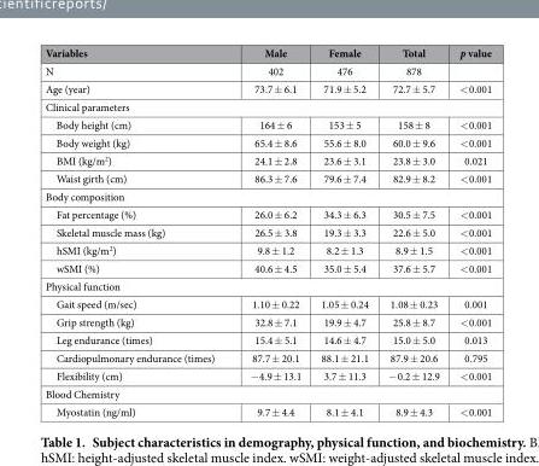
<table><thead><tr><td>Variables</td><td>Male</td><td>Female</td><td>Total</td><td>p value</td></tr></thead><tbody><tr><td>N</td><td>402</td><td>476</td><td>878</td><td></td></tr><tr><td>Age (year)</td><td>73.7 ± 6.1</td><td>71.9 ± 5.2</td><td>72.7 ± 5.7</td><td>&lt; 0.001</td></tr><tr><td colspan="5">Clinical parameters</td></tr><tr><td>Body height (cm)</td><td>164 ± 6</td><td>153 ± 5</td><td>158 ± 8</td><td>&lt; 0.001</td></tr><tr><td>Body weight (kg)</td><td>65.4 ± 8.6</td><td>55.6 ± 8.0</td><td>60.0 ± 9.6</td><td>&lt; 0.001</td></tr><tr><td>BMI (kg/m<sup>2</sup>)</td><td>24.1 ± 2.8</td><td>23.6 ± 3.1</td><td>23.8 ± 3.0</td><td>0.021</td></tr><tr><td>Waist girth (cm)</td><td>86.3 ± 7.6</td><td>79.6 ± 7.4</td><td>82.9 ± 8.2</td><td>&lt; 0.001</td></tr><tr><td colspan="5">Body composition</td></tr><tr><td>Fat percentage (%)</td><td>26.0 ± 6.2</td><td>34.3 ± 6.3</td><td>30.5 ± 7.5</td><td>&lt; 0.001</td></tr><tr><td>Skeletal muscle mass (kg)</td><td>26.5 ± 3.8</td><td>19.3 ± 3.3</td><td>22.6 ± 5.0</td><td>&lt; 0.001</td></tr><tr><td>hSMI (kg/m<sup>2</sup>)</td><td>9.8 ± 1.2</td><td>8.2 ± 1.3</td><td>8.9 ± 1.5</td><td>&lt; 0.001</td></tr><tr><td>wSMI (%)</td><td>40.6 ± 4.5</td><td>35.0 ± 5.4</td><td>37.6 ± 5.7</td><td>&lt; 0.001</td></tr><tr><td colspan="5">Physical function</td></tr><tr><td>Gait speed (m/sec)</td><td>1.10 ± 0.22</td><td>1.05 ± 0.24</td><td>1.08 ± 0.23</td><td>0.001</td></tr><tr><td>Grip strength (kg)</td><td>32.8 ± 7.1</td><td>19.9 ± 4.7</td><td>25.8 ± 8.7</td><td>&lt; 0.001</td></tr><tr><td>Leg endurance (times)</td><td>15.4 ± 5.1</td><td>14.6 ± 4.7</td><td>15.0 ± 5.0</td><td>0.013</td></tr><tr><td>Cardiopulmonary endurance (times)</td><td>87.7 ± 20.1</td><td>88.1 ± 21.1</td><td>87.9 ± 20.6</td><td>0.795</td></tr><tr><td>Flexibility (cm)</td><td>− 4.9 ± 13.1</td><td>3.7 ± 11.3</td><td>− 0.2 ± 12.9</td><td>&lt; 0.001</td></tr><tr><td colspan="5">Blood Chemistry</td></tr><tr><td>Myostatin (ng/ml)</td><td>9.7 ± 4.4</td><td>8.1 ± 4.1</td><td>8.9 ± 4.3</td><td>&lt; 0.001</td></tr></tbody></table>